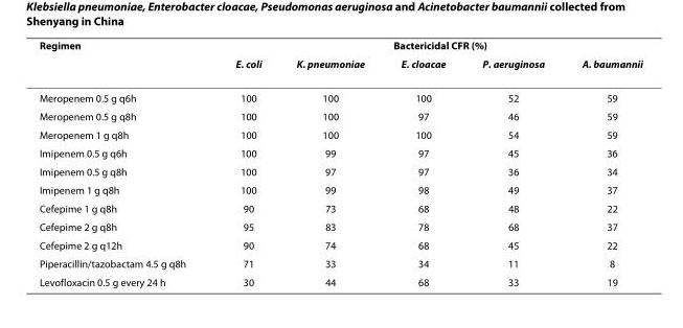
<table><thead><tr><td rowspan="2">Regimen</td><td colspan="5">Bactericidal CFR (%)</td></tr><tr><td>E. coli</td><td>K. pneumoniae</td><td>E. cloacae</td><td>P. aeruginosa</td><td>A. baumannii</td></tr></thead><tbody><tr><td>Meropenem 0.5 g q6h</td><td>100</td><td>100</td><td>100</td><td>52</td><td>59</td></tr><tr><td>Meropenem 0.5 g q8h</td><td>100</td><td>100</td><td>97</td><td>46</td><td>59</td></tr><tr><td>Meropenem 1 g q8h</td><td>100</td><td>100</td><td>100</td><td>54</td><td>59</td></tr><tr><td>Imipenem 0.5 g q6h</td><td>100</td><td>99</td><td>97</td><td>45</td><td>36</td></tr><tr><td>Imipenem 0.5 g q8h</td><td>100</td><td>97</td><td>97</td><td>36</td><td>34</td></tr><tr><td>Imipenem 1 g q8h</td><td>100</td><td>99</td><td>98</td><td>49</td><td>37</td></tr><tr><td>Cefepime 1 g q8h</td><td>90</td><td>73</td><td>68</td><td>48</td><td>22</td></tr><tr><td>Cefepime 2 g q8h</td><td>95</td><td>83</td><td>78</td><td>68</td><td>37</td></tr><tr><td>Cefepime 2 g q12h</td><td>90</td><td>74</td><td>68</td><td>45</td><td>22</td></tr><tr><td>Piperacillin/tazobactam 4.5 g q8h</td><td>71</td><td>33</td><td>34</td><td>11</td><td>8</td></tr><tr><td>Levofloxacin 0.5 g every 24 h</td><td>30</td><td>44</td><td>68</td><td>33</td><td>19</td></tr></tbody></table>